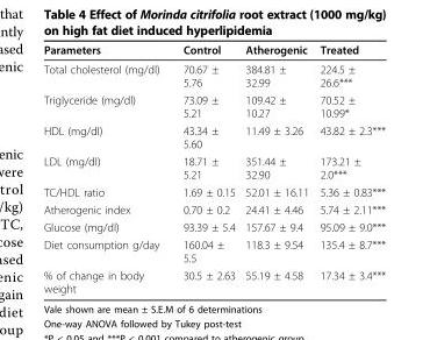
<table><thead><tr><td>Parameters</td><td>Control</td><td>Atherogenic</td><td>Treated</td></tr></thead><tbody><tr><td>Total cholesterol (mg/dl)</td><td>70.67 ± 5.76</td><td>384.81 ± 32.99</td><td>224.5 ± 26.6***</td></tr><tr><td>Triglyceride (mg/dl)</td><td>73.09 ± 5.21</td><td>109.42 ± 10.27</td><td>70.52 ± 10.99*</td></tr><tr><td>HDL (mg/dl)</td><td>43.34 ± 5.60</td><td>11.49 ± 3.26</td><td>43.82 ± 2.3***</td></tr><tr><td>LDL (mg/dl)</td><td>18.71 ± 5.21</td><td>351.44 ± 32.90</td><td>173.21 ± 2.0***</td></tr><tr><td>TC/HDL ratio</td><td>1.69 ± 0.15</td><td>52.01 ± 16.11</td><td>5.36 ± 0.83***</td></tr><tr><td>Atherogenic index</td><td>0.70 ± 0.2</td><td>24.41 ± 4.46</td><td>5.74 ± 2.11***</td></tr><tr><td>Glucose (mg/dl)</td><td>93.39 ± 5.4</td><td>157.67 ± 9.4</td><td>95.09 ± 9.0***</td></tr><tr><td>Diet consumption g/day</td><td>160.04 ± 5.5</td><td>118.3 ± 9.54</td><td>135.4 ± 8.7***</td></tr><tr><td>% of change in body weight</td><td>30.5 ± 2.63</td><td>55.19 ± 4.58</td><td>17.34 ± 3.4***</td></tr></tbody></table>